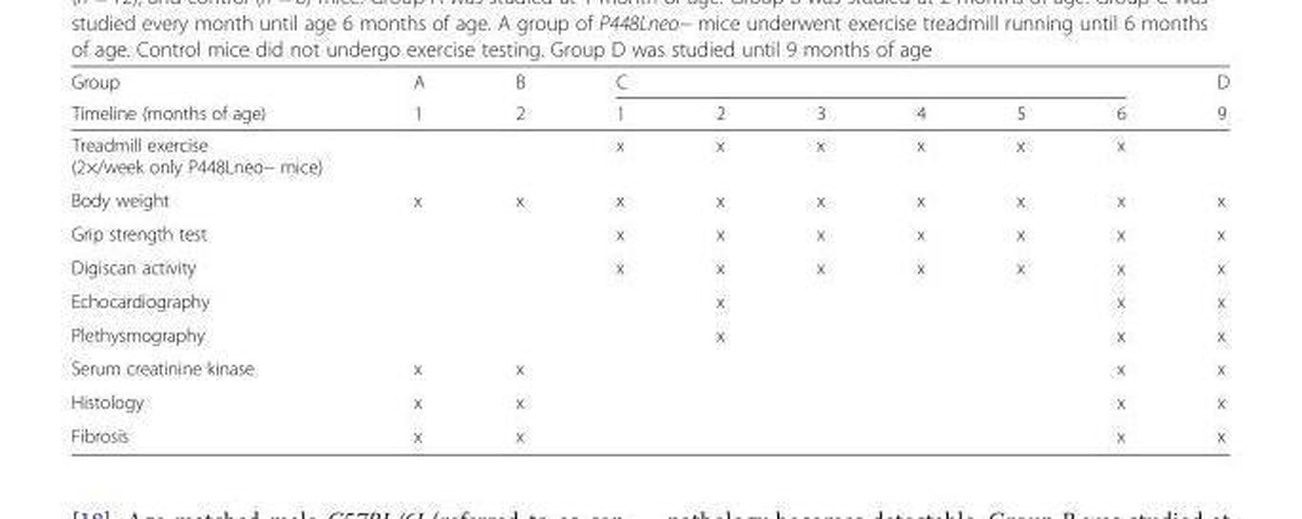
<table><thead><tr><td rowspan="2">Group Timeline (months of age)</td><td rowspan="2">A 1</td><td rowspan="2">B 2</td><td colspan="6">C</td><td rowspan="2">D 9</td></tr><tr><td>1</td><td>2</td><td>3</td><td>4</td><td>5</td><td>6</td></tr></thead><tbody><tr><td>Treadmill exercise (2×/week only P448Lneo− mice)</td><td></td><td></td><td>x</td><td>x</td><td>x</td><td>x</td><td>x</td><td>x</td><td></td></tr><tr><td>Body weight</td><td>x</td><td>x</td><td>x</td><td>x</td><td>x</td><td>x</td><td>x</td><td>x</td><td>x</td></tr><tr><td>Grip strength test</td><td></td><td></td><td>x</td><td>x</td><td>x</td><td>x</td><td>x</td><td>x</td><td>x</td></tr><tr><td>Digiscan activity</td><td></td><td></td><td>x</td><td>x</td><td>x</td><td>x</td><td>x</td><td>x</td><td>x</td></tr><tr><td>Echocardiography</td><td></td><td></td><td></td><td>x</td><td></td><td></td><td></td><td>x</td><td>x</td></tr><tr><td>Plethysmography</td><td></td><td></td><td></td><td>x</td><td></td><td></td><td></td><td>x</td><td>x</td></tr><tr><td>Serum creatinine kinase</td><td>x</td><td>x</td><td></td><td></td><td></td><td></td><td></td><td>x</td><td>x</td></tr><tr><td>Histology</td><td>x</td><td>x</td><td></td><td></td><td></td><td></td><td></td><td>x</td><td>x</td></tr><tr><td>Fibrosis</td><td>x</td><td>x</td><td></td><td></td><td></td><td></td><td></td><td>x</td><td>x</td></tr></tbody></table>